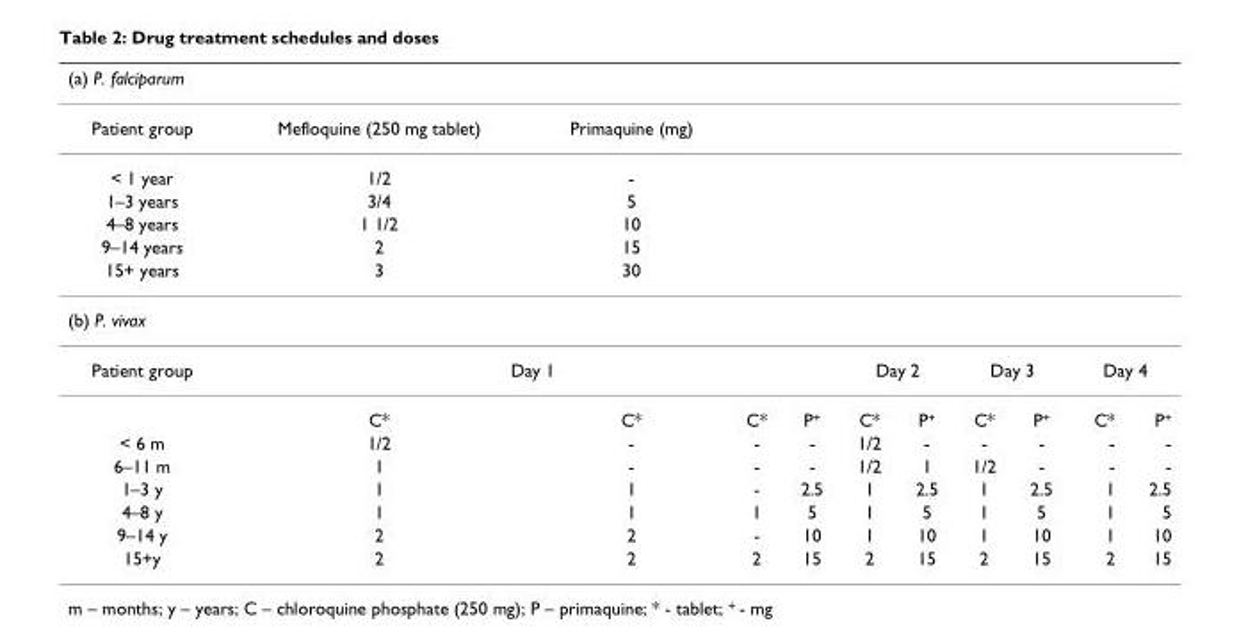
<table><thead><tr><td colspan="11">(a) P. falciparum</td></tr><tr><td>Patient group</td><td>Mefloquine (250 mg tablet)</td><td>Primaquine (mg)</td><td></td><td></td><td></td><td></td><td></td><td></td><td></td><td></td></tr></thead><tbody><tr><td>&lt; 1 year</td><td>1/2</td><td>-</td><td></td><td></td><td></td><td></td><td></td><td></td><td></td><td></td></tr><tr><td>1–3 years</td><td>3/4</td><td>5</td><td></td><td></td><td></td><td></td><td></td><td></td><td></td><td></td></tr><tr><td>4–8 years</td><td>1 1/2</td><td>10</td><td></td><td></td><td></td><td></td><td></td><td></td><td></td><td></td></tr><tr><td>9–14 years</td><td>2</td><td>15</td><td></td><td></td><td></td><td></td><td></td><td></td><td></td><td></td></tr><tr><td>15+ years</td><td>3</td><td>30</td><td></td><td></td><td></td><td></td><td></td><td></td><td></td><td></td></tr><tr><td colspan="11">(b) P. vivax</td></tr><tr><td rowspan="2">Patient group</td><td colspan="4">Day 1</td><td colspan="2">Day 2</td><td colspan="2">Day 3</td><td colspan="2">Day 4</td></tr><tr><td>C*</td><td>C*</td><td>C*</td><td>P<sup>+</sup></td><td>C*</td><td>P<sup>+</sup></td><td>C*</td><td>P<sup>+</sup></td><td>C*</td><td>P<sup>+</sup></td></tr><tr><td>&lt; 6 m</td><td>1/2</td><td>-</td><td>-</td><td>-</td><td>1/2</td><td>-</td><td>-</td><td>-</td><td>-</td><td>-</td></tr><tr><td>6–11 m</td><td>1</td><td>-</td><td>-</td><td>-</td><td>1/2</td><td>1</td><td>1/2</td><td>-</td><td>-</td><td>-</td></tr><tr><td>1–3 y</td><td>1</td><td>1</td><td>-</td><td>2.5</td><td>1</td><td>2.5</td><td>1</td><td>2.5</td><td>1</td><td>2.5</td></tr><tr><td>4–8 y</td><td>1</td><td>1</td><td>1</td><td>5</td><td>1</td><td>5</td><td>1</td><td>5</td><td>1</td><td>5</td></tr><tr><td>9–14 y</td><td>2</td><td>2</td><td>-</td><td>10</td><td>1</td><td>10</td><td>1</td><td>10</td><td>1</td><td>10</td></tr><tr><td>15+y</td><td>2</td><td>2</td><td>2</td><td>15</td><td>2</td><td>15</td><td>2</td><td>15</td><td>2</td><td>15</td></tr></tbody></table>